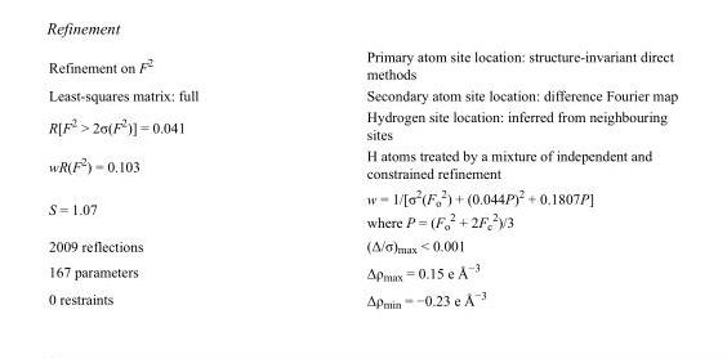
<table><tbody><tr><td>Refinement on F<sup>2</sup></td><td>Primary atom site location: structure-invariant direct methods</td></tr><tr><td>Least-squares matrix: full</td><td>Secondary atom site location: difference Fourier map</td></tr><tr><td>R[F<sup>2</sup> &gt; 2σ(F<sup>2</sup>)] = 0.041</td><td>Hydrogen site location: inferred from neighbouring sites</td></tr><tr><td>wR(F<sup>2</sup>) = 0.103</td><td>H atoms treated by a mixture of independent and constrained refinement</td></tr><tr><td>S = 1.07</td><td>w = 1/[σ<sup>2</sup>(F<sub>o</sub> <sup>2</sup>) + (0.044P)<sup>2</sup> + 0.1807P] where P = (F<sub>o</sub> <sup>2</sup> + 2F<sub>c</sub> <sup>2</sup>)/3</td></tr><tr><td>2009 reflections</td><td>(Δ/σ)<sub>max</sub> &lt; 0.001</td></tr><tr><td>167 parameters</td><td>Δρ<sub>max</sub> = 0.15 e Å<sup>−3</sup></td></tr><tr><td>0 restraints</td><td>Δρ<sub>min</sub> = −0.23 e Å<sup>−3</sup></td></tr></tbody></table>